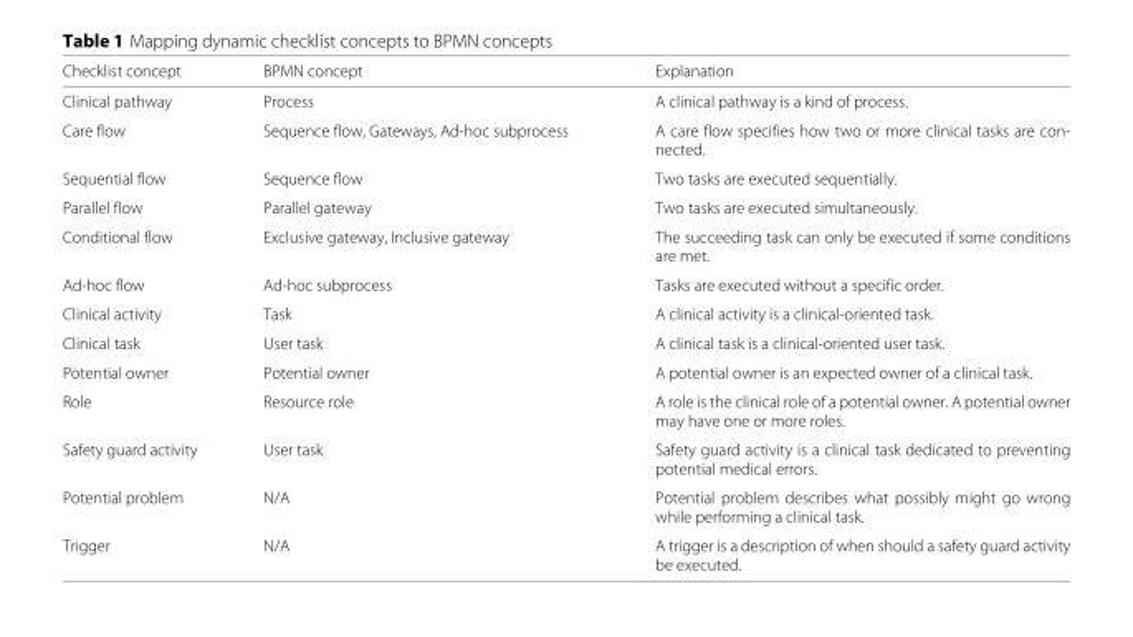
<table><thead><tr><td>Checklist concept</td><td>BPMN concept</td><td>Explanation</td></tr></thead><tbody><tr><td>Clinical pathway</td><td>Process</td><td>A clinical pathway is a kind of process.</td></tr><tr><td>Care flow</td><td>Sequence flow, Gateways, Ad-hoc subprocess</td><td>A care flow specifies how two or more clinical tasks are con- nected.</td></tr><tr><td>Sequential flow</td><td>Sequence flow</td><td>Two tasks are executed sequentially.</td></tr><tr><td>Parallel flow</td><td>Parallel gateway</td><td>Two tasks are executed simultaneously.</td></tr><tr><td>Conditional flow</td><td>Exclusive gateway, Inclusive gateway</td><td>The succeeding task can only be executed if some conditions are met.</td></tr><tr><td>Ad-hoc flow</td><td>Ad-hoc subprocess</td><td>Tasks are executed without a specific order.</td></tr><tr><td>Clinical activity</td><td>Task</td><td>A clinical activity is a clinical-oriented task.</td></tr><tr><td>Clinical task</td><td>User task</td><td>A clinical task is a clinical-oriented user task.</td></tr><tr><td>Potential owner</td><td>Potential owner</td><td>A potential owner is an expected owner of a clinical task.</td></tr><tr><td>Role</td><td>Resource role</td><td>A role is the clinical role of a potential owner. A potential owner may have one or more roles.</td></tr><tr><td>Safety guard activity</td><td>User task</td><td>Safety guard activity is a clinical task dedicated to preventing potential medical errors.</td></tr><tr><td>Potential problem</td><td>N/A</td><td>Potential problem describes what possibly might go wrong while performing a clinical task.</td></tr><tr><td>Trigger</td><td>N/A</td><td>A trigger is a description of when should a safety guard activity be executed.</td></tr></tbody></table>